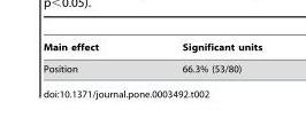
<table><thead><tr><td>Main effect</td><td>Significant units</td></tr></thead><tbody><tr><td>Position</td><td>66.3% (53/80)</td></tr></tbody></table>